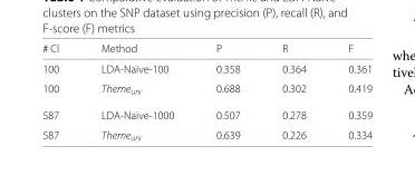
<table><thead><tr><td># Cl</td><td>Method</td><td>P</td><td>R</td><td>F</td></tr></thead><tbody><tr><td>100</td><td>LDA-Naïve-100</td><td>0.358</td><td>0.364</td><td>0.361</td></tr><tr><td>100</td><td>Theme<sub>uni</sub></td><td>0.688</td><td>0.302</td><td>0.419</td></tr><tr><td>587</td><td>LDA-Naïve-1000</td><td>0.507</td><td>0.278</td><td>0.359</td></tr><tr><td>587</td><td>Theme<sub>uni</sub></td><td>0.639</td><td>0.226</td><td>0.334</td></tr></tbody></table>